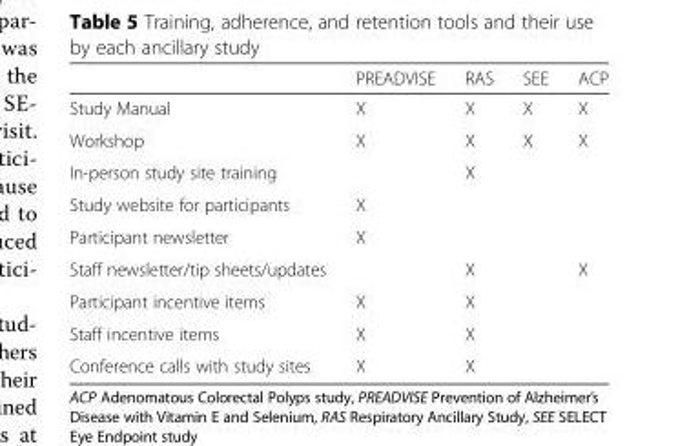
<table><thead><tr><td></td><td>PREADVISE</td><td>RAS</td><td>SEE</td><td>ACP</td></tr></thead><tbody><tr><td>Study Manual</td><td>X</td><td>X</td><td>X</td><td>X</td></tr><tr><td>Workshop</td><td>X</td><td>X</td><td>X</td><td>X</td></tr><tr><td>In-person study site training</td><td></td><td>X</td><td></td><td></td></tr><tr><td>Study website for participants</td><td>X</td><td></td><td></td><td></td></tr><tr><td>Participant newsletter</td><td>X</td><td></td><td></td><td></td></tr><tr><td>Staff newsletter/tip sheets/updates</td><td></td><td>X</td><td></td><td>X</td></tr><tr><td>Participant incentive items</td><td>X</td><td>X</td><td></td><td></td></tr><tr><td>Staff incentive items</td><td>X</td><td>X</td><td></td><td></td></tr><tr><td>Conference calls with study sites</td><td>X</td><td>X</td><td></td><td></td></tr></tbody></table>